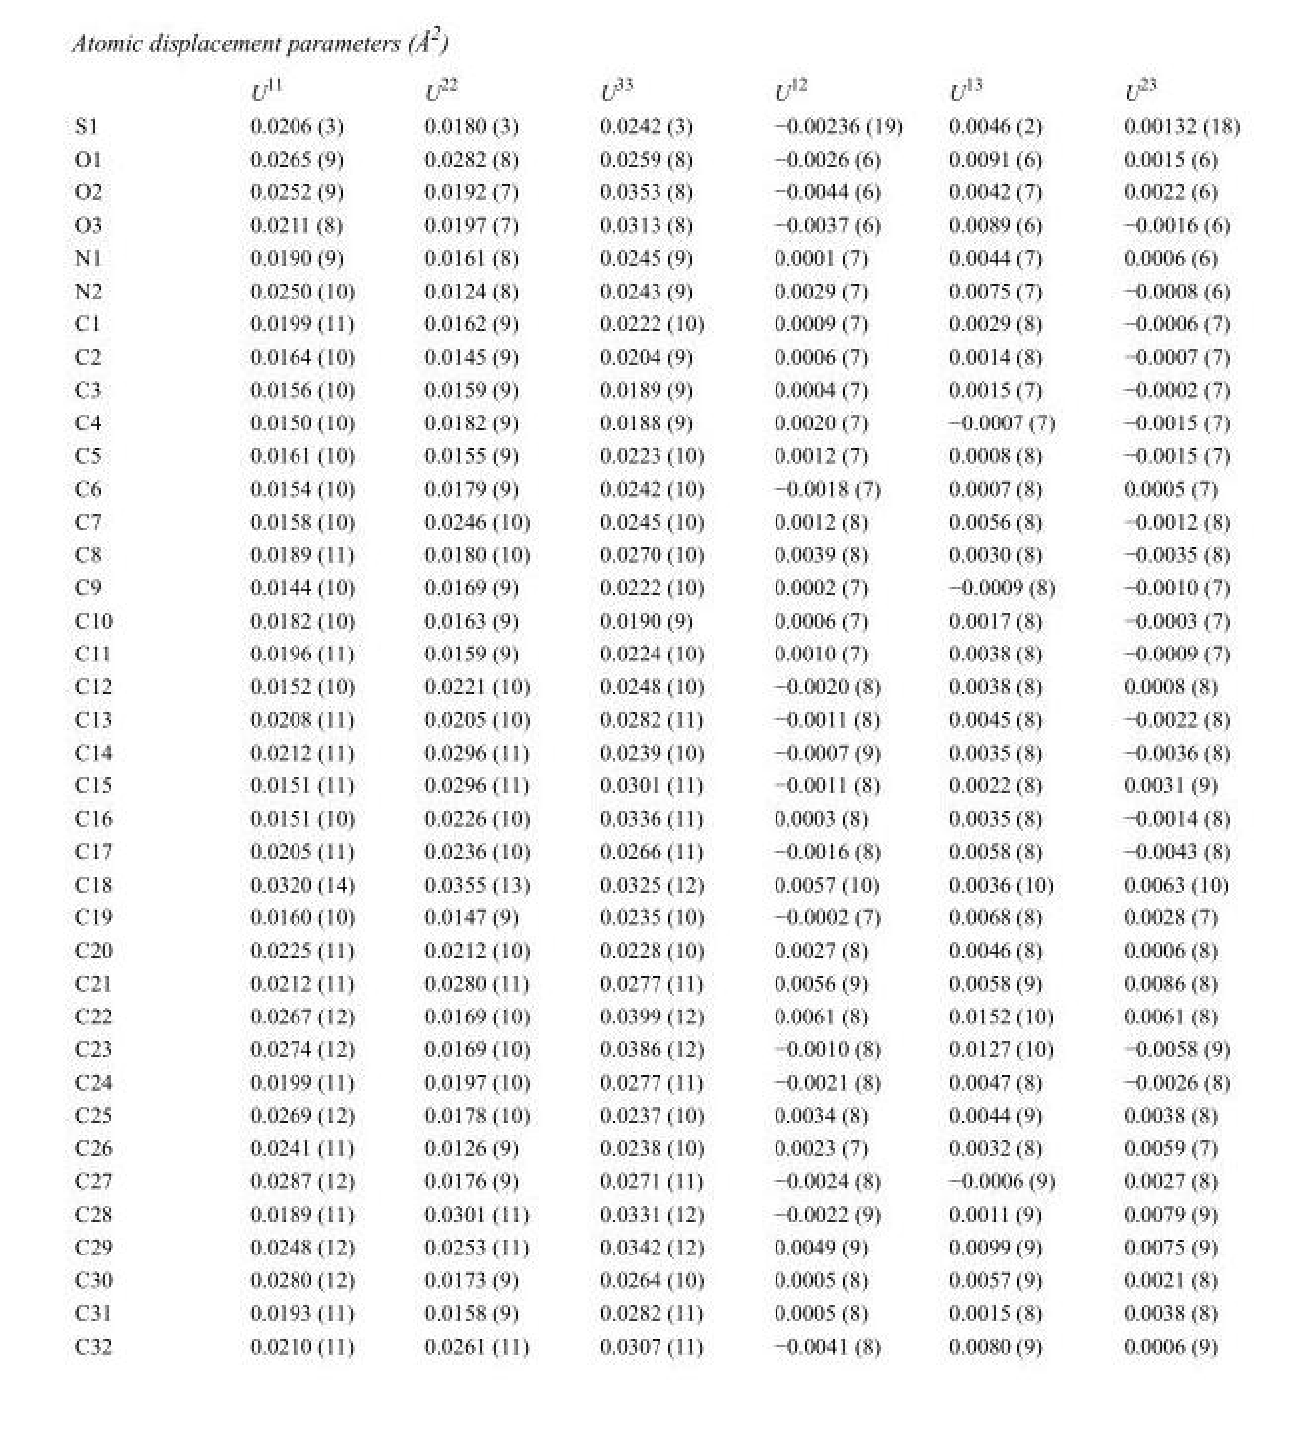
<table><thead><tr><td></td><td>U<sup>11</sup></td><td>U<sup>22</sup></td><td>U<sup>33</sup></td><td>U<sup>12</sup></td><td>U<sup>13</sup></td><td>U<sup>23</sup></td></tr></thead><tbody><tr><td>S1</td><td>0.0206 (3)</td><td>0.0180 (3)</td><td>0.0242 (3)</td><td>−0.00236 (19)</td><td>0.0046 (2)</td><td>0.00132 (18)</td></tr><tr><td>O1</td><td>0.0265 (9)</td><td>0.0282 (8)</td><td>0.0259 (8)</td><td>−0.0026 (6)</td><td>0.0091 (6)</td><td>0.0015 (6)</td></tr><tr><td>O2</td><td>0.0252 (9)</td><td>0.0192 (7)</td><td>0.0353 (8)</td><td>−0.0044 (6)</td><td>0.0042 (7)</td><td>0.0022 (6)</td></tr><tr><td>O3</td><td>0.0211 (8)</td><td>0.0197 (7)</td><td>0.0313 (8)</td><td>−0.0037 (6)</td><td>0.0089 (6)</td><td>−0.0016 (6)</td></tr><tr><td>N1</td><td>0.0190 (9)</td><td>0.0161 (8)</td><td>0.0245 (9)</td><td>0.0001 (7)</td><td>0.0044 (7)</td><td>0.0006 (6)</td></tr><tr><td>N2</td><td>0.0250 (10)</td><td>0.0124 (8)</td><td>0.0243 (9)</td><td>0.0029 (7)</td><td>0.0075 (7)</td><td>−0.0008 (6)</td></tr><tr><td>C1</td><td>0.0199 (11)</td><td>0.0162 (9)</td><td>0.0222 (10)</td><td>0.0009 (7)</td><td>0.0029 (8)</td><td>−0.0006 (7)</td></tr><tr><td>C2</td><td>0.0164 (10)</td><td>0.0145 (9)</td><td>0.0204 (9)</td><td>0.0006 (7)</td><td>0.0014 (8)</td><td>−0.0007 (7)</td></tr><tr><td>C3</td><td>0.0156 (10)</td><td>0.0159 (9)</td><td>0.0189 (9)</td><td>0.0004 (7)</td><td>0.0015 (7)</td><td>−0.0002 (7)</td></tr><tr><td>C4</td><td>0.0150 (10)</td><td>0.0182 (9)</td><td>0.0188 (9)</td><td>0.0020 (7)</td><td>−0.0007 (7)</td><td>−0.0015 (7)</td></tr><tr><td>C5</td><td>0.0161 (10)</td><td>0.0155 (9)</td><td>0.0223 (10)</td><td>0.0012 (7)</td><td>0.0008 (8)</td><td>−0.0015 (7)</td></tr><tr><td>C6</td><td>0.0154 (10)</td><td>0.0179 (9)</td><td>0.0242 (10)</td><td>−0.0018 (7)</td><td>0.0007 (8)</td><td>0.0005 (7)</td></tr><tr><td>C7</td><td>0.0158 (10)</td><td>0.0246 (10)</td><td>0.0245 (10)</td><td>0.0012 (8)</td><td>0.0056 (8)</td><td>−0.0012 (8)</td></tr><tr><td>C8</td><td>0.0189 (11)</td><td>0.0180 (10)</td><td>0.0270 (10)</td><td>0.0039 (8)</td><td>0.0030 (8)</td><td>−0.0035 (8)</td></tr><tr><td>C9</td><td>0.0144 (10)</td><td>0.0169 (9)</td><td>0.0222 (10)</td><td>0.0002 (7)</td><td>−0.0009 (8)</td><td>−0.0010 (7)</td></tr><tr><td>C10</td><td>0.0182 (10)</td><td>0.0163 (9)</td><td>0.0190 (9)</td><td>0.0006 (7)</td><td>0.0017 (8)</td><td>−0.0003 (7)</td></tr><tr><td>C11</td><td>0.0196 (11)</td><td>0.0159 (9)</td><td>0.0224 (10)</td><td>0.0010 (7)</td><td>0.0038 (8)</td><td>−0.0009 (7)</td></tr><tr><td>C12</td><td>0.0152 (10)</td><td>0.0221 (10)</td><td>0.0248 (10)</td><td>−0.0020 (8)</td><td>0.0038 (8)</td><td>0.0008 (8)</td></tr><tr><td>C13</td><td>0.0208 (11)</td><td>0.0205 (10)</td><td>0.0282 (11)</td><td>−0.0011 (8)</td><td>0.0045 (8)</td><td>−0.0022 (8)</td></tr><tr><td>C14</td><td>0.0212 (11)</td><td>0.0296 (11)</td><td>0.0239 (10)</td><td>−0.0007 (9)</td><td>0.0035 (8)</td><td>−0.0036 (8)</td></tr><tr><td>C15</td><td>0.0151 (11)</td><td>0.0296 (11)</td><td>0.0301 (11)</td><td>−0.0011 (8)</td><td>0.0022 (8)</td><td>0.0031 (9)</td></tr><tr><td>C16</td><td>0.0151 (10)</td><td>0.0226 (10)</td><td>0.0336 (11)</td><td>0.0003 (8)</td><td>0.0035 (8)</td><td>−0.0014 (8)</td></tr><tr><td>C17</td><td>0.0205 (11)</td><td>0.0236 (10)</td><td>0.0266 (11)</td><td>−0.0016 (8)</td><td>0.0058 (8)</td><td>−0.0043 (8)</td></tr><tr><td>C18</td><td>0.0320 (14)</td><td>0.0355 (13)</td><td>0.0325 (12)</td><td>0.0057 (10)</td><td>0.0036 (10)</td><td>0.0063 (10)</td></tr><tr><td>C19</td><td>0.0160 (10)</td><td>0.0147 (9)</td><td>0.0235 (10)</td><td>−0.0002 (7)</td><td>0.0068 (8)</td><td>0.0028 (7)</td></tr><tr><td>C20</td><td>0.0225 (11)</td><td>0.0212 (10)</td><td>0.0228 (10)</td><td>0.0027 (8)</td><td>0.0046 (8)</td><td>0.0006 (8)</td></tr><tr><td>C21</td><td>0.0212 (11)</td><td>0.0280 (11)</td><td>0.0277 (11)</td><td>0.0056 (9)</td><td>0.0058 (9)</td><td>0.0086 (8)</td></tr><tr><td>C22</td><td>0.0267 (12)</td><td>0.0169 (10)</td><td>0.0399 (12)</td><td>0.0061 (8)</td><td>0.0152 (10)</td><td>0.0061 (8)</td></tr><tr><td>C23</td><td>0.0274 (12)</td><td>0.0169 (10)</td><td>0.0386 (12)</td><td>−0.0010 (8)</td><td>0.0127 (10)</td><td>−0.0058 (9)</td></tr><tr><td>C24</td><td>0.0199 (11)</td><td>0.0197 (10)</td><td>0.0277 (11)</td><td>−0.0021 (8)</td><td>0.0047 (8)</td><td>−0.0026 (8)</td></tr><tr><td>C25</td><td>0.0269 (12)</td><td>0.0178 (10)</td><td>0.0237 (10)</td><td>0.0034 (8)</td><td>0.0044 (9)</td><td>0.0038 (8)</td></tr><tr><td>C26</td><td>0.0241 (11)</td><td>0.0126 (9)</td><td>0.0238 (10)</td><td>0.0023 (7)</td><td>0.0032 (8)</td><td>0.0059 (7)</td></tr><tr><td>C27</td><td>0.0287 (12)</td><td>0.0176 (9)</td><td>0.0271 (11)</td><td>−0.0024 (8)</td><td>−0.0006 (9)</td><td>0.0027 (8)</td></tr><tr><td>C28</td><td>0.0189 (11)</td><td>0.0301 (11)</td><td>0.0331 (12)</td><td>−0.0022 (9)</td><td>0.0011 (9)</td><td>0.0079 (9)</td></tr><tr><td>C29</td><td>0.0248 (12)</td><td>0.0253 (11)</td><td>0.0342 (12)</td><td>0.0049 (9)</td><td>0.0099 (9)</td><td>0.0075 (9)</td></tr><tr><td>C30</td><td>0.0280 (12)</td><td>0.0173 (9)</td><td>0.0264 (10)</td><td>0.0005 (8)</td><td>0.0057 (9)</td><td>0.0021 (8)</td></tr><tr><td>C31</td><td>0.0193 (11)</td><td>0.0158 (9)</td><td>0.0282 (11)</td><td>0.0005 (8)</td><td>0.0015 (8)</td><td>0.0038 (8)</td></tr><tr><td>C32</td><td>0.0210 (11)</td><td>0.0261 (11)</td><td>0.0307 (11)</td><td>−0.0041 (8)</td><td>0.0080 (9)</td><td>0.0006 (9)</td></tr></tbody></table>